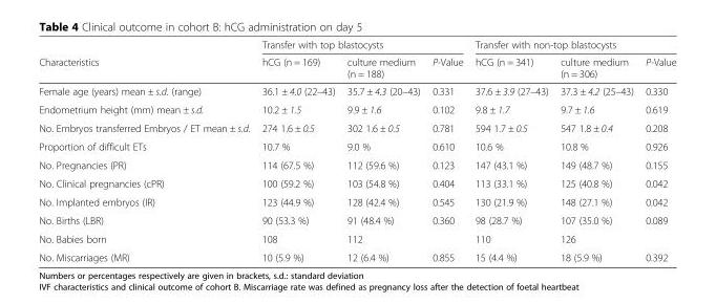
<table><thead><tr><td rowspan="2">Characteristics</td><td colspan="3">Transfer with top blastocysts</td><td colspan="3">Transfer with non-top blastocysts</td></tr><tr><td>hCG (n = 169)</td><td>culture medium (n = 188)</td><td>P-Value</td><td>hCG (n = 341)</td><td>culture medium (n = 306)</td><td>P-Value</td></tr></thead><tbody><tr><td>Female age (years) mean ± s.d. (range)</td><td>36.1 ± 4.0 (22–43)</td><td>35.7 ± 4.3 (20–43)</td><td>0.331</td><td>37.6 ± 3.9 (27–43)</td><td>37.3 ± 4.2 (25–43)</td><td>0.330</td></tr><tr><td>Endometrium height (mm) mean ± s.d.</td><td>10.2 ± 1.5</td><td>9.9 ± 1.6</td><td>0.102</td><td>9.8 ± 1.7</td><td>9.7 ± 1.6</td><td>0.619</td></tr><tr><td>No. Embryos transferred Embryos / ET mean ± s.d.</td><td>274 1.6 ± 0.5</td><td>302 1.6 ± 0.5</td><td>0.781</td><td>594 1.7 ± 0.5</td><td>547 1.8 ± 0.4</td><td>0.208</td></tr><tr><td>Proportion of difficult ETs</td><td>10.7 %</td><td>9.0 %</td><td>0.610</td><td>10.6 %</td><td>10.8 %</td><td>0.926</td></tr><tr><td>No. Pregnancies (PR)</td><td>114 (67.5 %)</td><td>112 (59.6 %)</td><td>0.123</td><td>147 (43.1 %)</td><td>149 (48.7 %)</td><td>0.155</td></tr><tr><td>No. Clinical pregnancies (cPR)</td><td>100 (59.2 %)</td><td>103 (54.8 %)</td><td>0.404</td><td>113 (33.1 %)</td><td>125 (40.8 %)</td><td>0.042</td></tr><tr><td>No. Implanted embryos (IR)</td><td>123 (44.9 %)</td><td>128 (42.4 %)</td><td>0.545</td><td>130 (21.9 %)</td><td>148 (27.1 %)</td><td>0.042</td></tr><tr><td>No. Births (LBR)</td><td>90 (53.3 %)</td><td>91 (48.4 %)</td><td>0.360</td><td>98 (28.7 %)</td><td>107 (35.0 %)</td><td>0.089</td></tr><tr><td>No. Babies born</td><td>108</td><td>112</td><td></td><td>110</td><td>126</td><td></td></tr><tr><td>No. Miscarriages (MR)</td><td>10 (5.9 %)</td><td>12 (6.4 %)</td><td>0.855</td><td>15 (4.4 %)</td><td>18 (5.9 %)</td><td>0.392</td></tr></tbody></table>